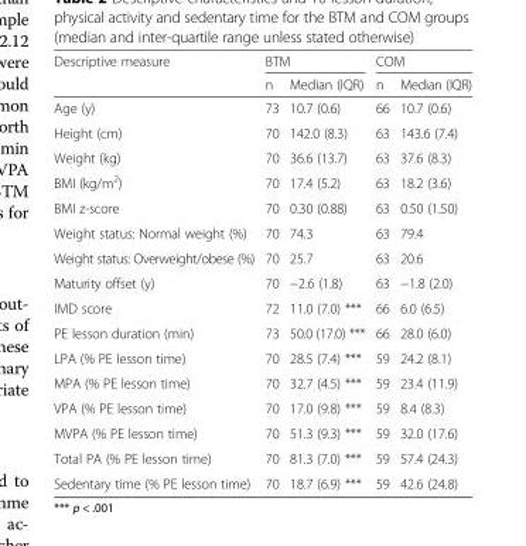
<table><thead><tr><td rowspan="2">Descriptive measure</td><td colspan="2">BTM</td><td colspan="2">COM</td></tr><tr><td>n</td><td>Median (IQR)</td><td>n</td><td>Median (IQR)</td></tr></thead><tbody><tr><td>Age (y)</td><td>73</td><td>10.7 (0.6)</td><td>66</td><td>10.7 (0.6)</td></tr><tr><td>Height (cm)</td><td>70</td><td>142.0 (8.3)</td><td>63</td><td>143.6 (7.4)</td></tr><tr><td>Weight (kg)</td><td>70</td><td>36.6 (13.7)</td><td>63</td><td>37.6 (8.3)</td></tr><tr><td>BMI (kg/m<sup>2</sup>)</td><td>70</td><td>17.4 (5.2)</td><td>63</td><td>18.2 (3.6)</td></tr><tr><td>BMI z-score</td><td>70</td><td>0.30 (0.88)</td><td>63</td><td>0.50 (1.50)</td></tr><tr><td>Weight status: Normal weight (%)</td><td>70</td><td>74.3</td><td>63</td><td>79.4</td></tr><tr><td>Weight status: Overweight/obese (%)</td><td>70</td><td>25.7</td><td>63</td><td>20.6</td></tr><tr><td>Maturity offset (y)</td><td>70</td><td>−2.6 (1.8)</td><td>63</td><td>−1.8 (2.0)</td></tr><tr><td>IMD score</td><td>72</td><td>11.0 (7.0) ***</td><td>66</td><td>6.0 (6.5)</td></tr><tr><td>PE lesson duration (min)</td><td>73</td><td>50.0 (17.0) ***</td><td>66</td><td>28.0 (6.0)</td></tr><tr><td>LPA (% PE lesson time)</td><td>70</td><td>28.5 (7.4) ***</td><td>59</td><td>24.2 (8.1)</td></tr><tr><td>MPA (% PE lesson time)</td><td>70</td><td>32.7 (4.5) ***</td><td>59</td><td>23.4 (11.9)</td></tr><tr><td>VPA (% PE lesson time)</td><td>70</td><td>17.0 (9.8) ***</td><td>59</td><td>8.4 (8.3)</td></tr><tr><td>MVPA (% PE lesson time)</td><td>70</td><td>51.3 (9.3) ***</td><td>59</td><td>32.0 (17.6)</td></tr><tr><td>Total PA (% PE lesson time)</td><td>70</td><td>81.3 (7.0) ***</td><td>59</td><td>57.4 (24.3)</td></tr><tr><td>Sedentary time (% PE lesson time)</td><td>70</td><td>18.7 (6.9) ***</td><td>59</td><td>42.6 (24.8)</td></tr></tbody></table>